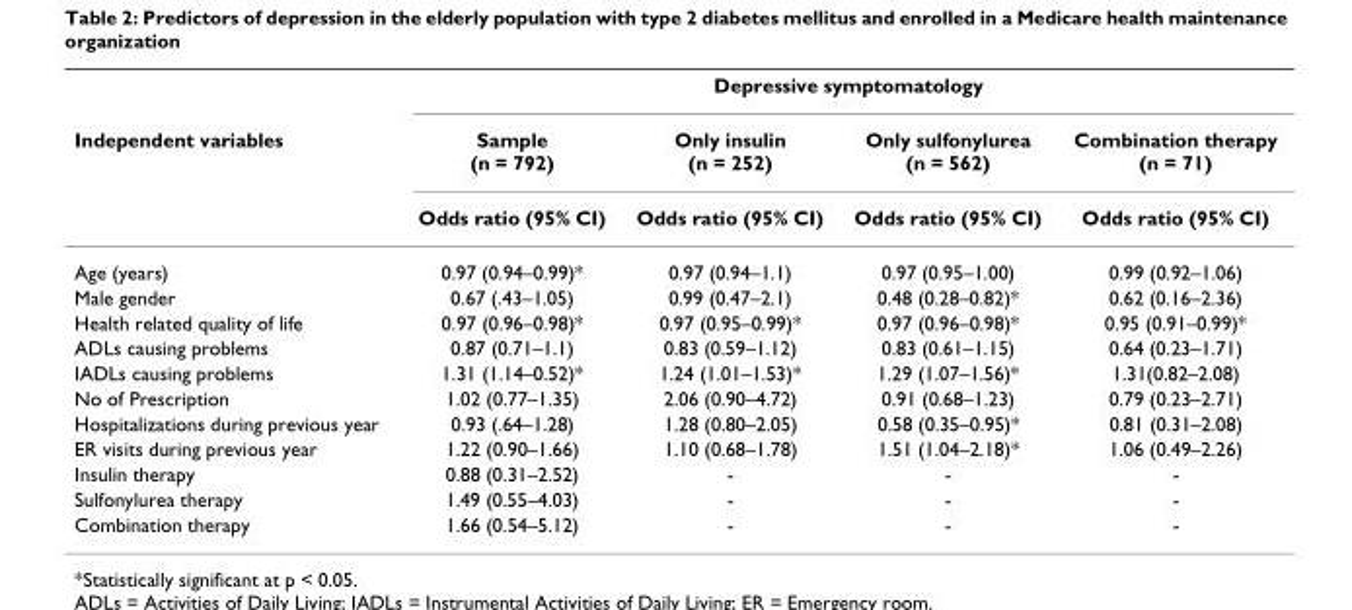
<table><thead><tr><td rowspan="3">Independent variables</td><td colspan="4">Depressive symptomatology</td></tr><tr><td rowspan="2">Sample (n = 792) Odds ratio (95% CI)</td><td rowspan="2">Only insulin (n = 252) Odds ratio (95% CI)</td><td rowspan="2">Only sulfonylurea (n = 562) Odds ratio (95% CI)</td><td rowspan="2">Combination therapy (n = 71) Odds ratio (95% CI)</td></tr><tr></tr></thead><tbody><tr><td>Age (years)</td><td>0.97 (0.94–0.99)*</td><td>0.97 (0.94–1.1)</td><td>0.97 (0.95–1.00)</td><td>0.99 (0.92–1.06)</td></tr><tr><td>Male gender</td><td>0.67 (.43–1.05)</td><td>0.99 (0.47–2.1)</td><td>0.48 (0.28–0.82)*</td><td>0.62 (0.16–2.36)</td></tr><tr><td>Health related quality of life</td><td>0.97 (0.96–0.98)*</td><td>0.97 (0.95–0.99)*</td><td>0.97 (0.96–0.98)*</td><td>0.95 (0.91–0.99)*</td></tr><tr><td>ADLs causing problems</td><td>0.87 (0.71–1.1)</td><td>0.83 (0.59–1.12)</td><td>0.83 (0.61–1.15)</td><td>0.64 (0.23–1.71)</td></tr><tr><td>IADLs causing problems</td><td>1.31 (1.14–0.52)*</td><td>1.24 (1.01–1.53)*</td><td>1.29 (1.07–1.56)*</td><td>1.31(0.82–2.08)</td></tr><tr><td>No of Prescription</td><td>1.02 (0.77–1.35)</td><td>2.06 (0.90–4.72)</td><td>0.91 (0.68–1.23)</td><td>0.79 (0.23–2.71)</td></tr><tr><td>Hospitalizations during previous year</td><td>0.93 (.64–1.28)</td><td>1.28 (0.80–2.05)</td><td>0.58 (0.35–0.95)*</td><td>0.81 (0.31–2.08)</td></tr><tr><td>ER visits during previous year</td><td>1.22 (0.90–1.66)</td><td>1.10 (0.68–1.78)</td><td>1.51 (1.04–2.18)*</td><td>1.06 (0.49–2.26)</td></tr><tr><td>Insulin therapy</td><td>0.88 (0.31–2.52)</td><td>-</td><td>-</td><td>-</td></tr><tr><td>Sulfonylurea therapy</td><td>1.49 (0.55–4.03)</td><td>-</td><td>-</td><td>-</td></tr><tr><td>Combination therapy</td><td>1.66 (0.54–5.12)</td><td>-</td><td>-</td><td>-</td></tr></tbody></table>